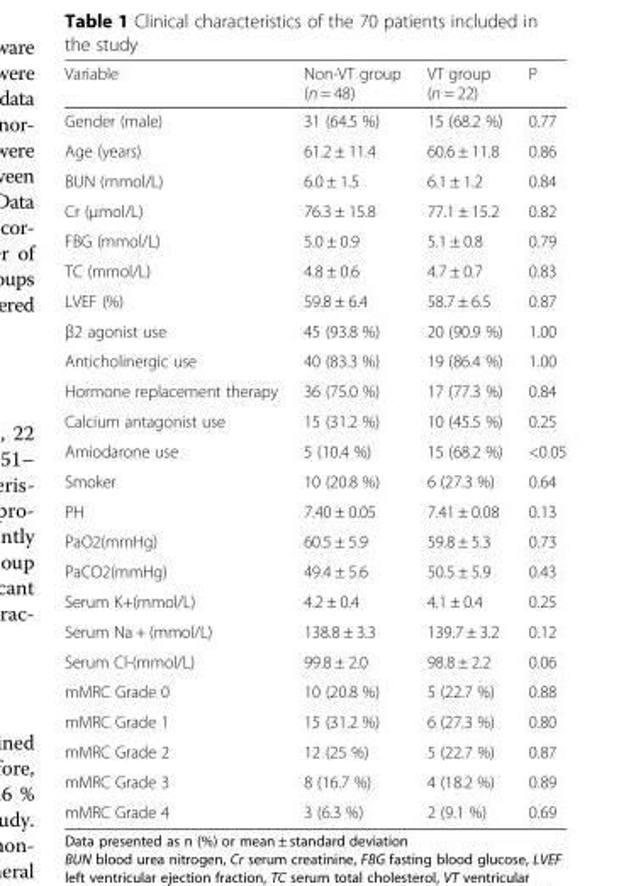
<table><thead><tr><td>Variable</td><td>Non-VT group (n = 48)</td><td>VT group (n = 22)</td><td>P</td></tr></thead><tbody><tr><td>Gender (male)</td><td>31 (64.5 %)</td><td>15 (68.2 %)</td><td>0.77</td></tr><tr><td>Age (years)</td><td>61.2 ± 11.4</td><td>60.6 ± 11.8</td><td>0.86</td></tr><tr><td>BUN (mmol/L)</td><td>6.0 ± 1.5</td><td>6.1 ± 1.2</td><td>0.84</td></tr><tr><td>Cr (μmol/L)</td><td>76.3 ± 15.8</td><td>77.1 ± 15.2</td><td>0.82</td></tr><tr><td>FBG (mmol/L)</td><td>5.0 ± 0.9</td><td>5.1 ± 0.8</td><td>0.79</td></tr><tr><td>TC (mmol/L)</td><td>4.8 ± 0.6</td><td>4.7 ± 0.7</td><td>0.83</td></tr><tr><td>LVEF (%)</td><td>59.8 ± 6.4</td><td>58.7 ± 6.5</td><td>0.87</td></tr><tr><td>β2 agonist use</td><td>45 (93.8 %)</td><td>20 (90.9 %)</td><td>1.00</td></tr><tr><td>Anticholinergic use</td><td>40 (83.3 %)</td><td>19 (86.4 %)</td><td>1.00</td></tr><tr><td>Hormone replacement therapy</td><td>36 (75.0 %)</td><td>17 (77.3 %)</td><td>0.84</td></tr><tr><td>Calcium antagonist use</td><td>15 (31.2 %)</td><td>10 (45.5 %)</td><td>0.25</td></tr><tr><td>Amiodarone use</td><td>5 (10.4 %)</td><td>15 (68.2 %)</td><td>&lt;0.05</td></tr><tr><td>Smoker</td><td>10 (20.8 %)</td><td>6 (27.3 %)</td><td>0.64</td></tr><tr><td>PH</td><td>7.40 ± 0.05</td><td>7.41 ± 0.08</td><td>0.13</td></tr><tr><td>PaO2(mmHg)</td><td>60.5 ± 5.9</td><td>59.8 ± 5.3</td><td>0.73</td></tr><tr><td>PaCO2(mmHg)</td><td>49.4 ± 5.6</td><td>50.5 ± 5.9</td><td>0.43</td></tr><tr><td>Serum K+(mmol/L)</td><td>4.2 ± 0.4</td><td>4.1 ± 0.4</td><td>0.25</td></tr><tr><td>Serum Na + (mmol/L)</td><td>138.8 ± 3.3</td><td>139.7 ± 3.2</td><td>0.12</td></tr><tr><td>Serum Cl-(mmol/L)</td><td>99.8 ± 2.0</td><td>98.8 ± 2.2</td><td>0.06</td></tr><tr><td>mMRC Grade 0</td><td>10 (20.8 %)</td><td>5 (22.7 %)</td><td>0.88</td></tr><tr><td>mMRC Grade 1</td><td>15 (31.2 %)</td><td>6 (27.3 %)</td><td>0.80</td></tr><tr><td>mMRC Grade 2</td><td>12 (25 %)</td><td>5 (22.7 %)</td><td>0.87</td></tr><tr><td>mMRC Grade 3</td><td>8 (16.7 %)</td><td>4 (18.2 %)</td><td>0.89</td></tr><tr><td>mMRC Grade 4</td><td>3 (6.3 %)</td><td>2 (9.1 %)</td><td>0.69</td></tr></tbody></table>